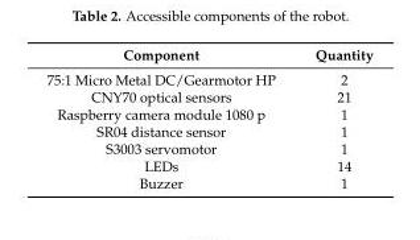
<table><thead><tr><td>Component</td><td>Quantity</td></tr></thead><tbody><tr><td>75:1 Micro Metal DC/Gearmotor HP</td><td>2</td></tr><tr><td>CNY70 optical sensors</td><td>21</td></tr><tr><td>Raspberry camera module 1080 p</td><td>1</td></tr><tr><td>SR04 distance sensor</td><td>1</td></tr><tr><td>S3003 servomotor</td><td>1</td></tr><tr><td>LEDs</td><td>14</td></tr><tr><td>Buzzer</td><td>1</td></tr></tbody></table>